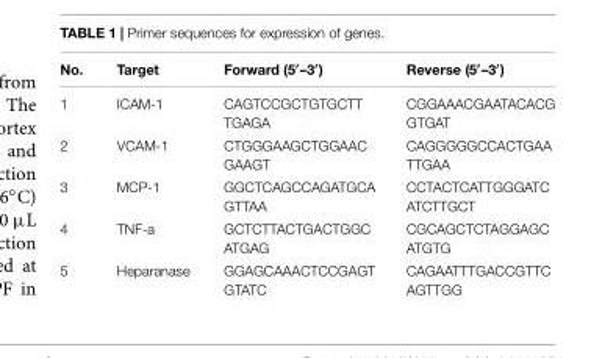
<table><thead><tr><td>No.</td><td>Target</td><td>Forward (5′–3′)</td><td>Reverse (5′–3′)</td></tr></thead><tbody><tr><td>1</td><td>ICAM-1</td><td>CAGTCCGCTGTGCTT TGAGA</td><td>CGGAAACGAATACACG GTGAT</td></tr><tr><td>2</td><td>VCAM-1</td><td>CTGGGAAGCTGGAAC GAAGT</td><td>CAGGGGGCCACTGAA TTGAA</td></tr><tr><td>3</td><td>MCP-1</td><td>GGCTCAGCCAGATGCA GTTAA</td><td>CCTACTCATTGGGATC ATCTTGCT</td></tr><tr><td>4</td><td>TNF-a</td><td>GCTCTTACTGACTGGC ATGAG</td><td>CGCAGCTCTAGGAGC ATGTG</td></tr><tr><td>5</td><td>Heparanase</td><td>GGAGCAAACTCCGAGT GTATC</td><td>CAGAATTTGACCGTTC AGTTGG</td></tr></tbody></table>